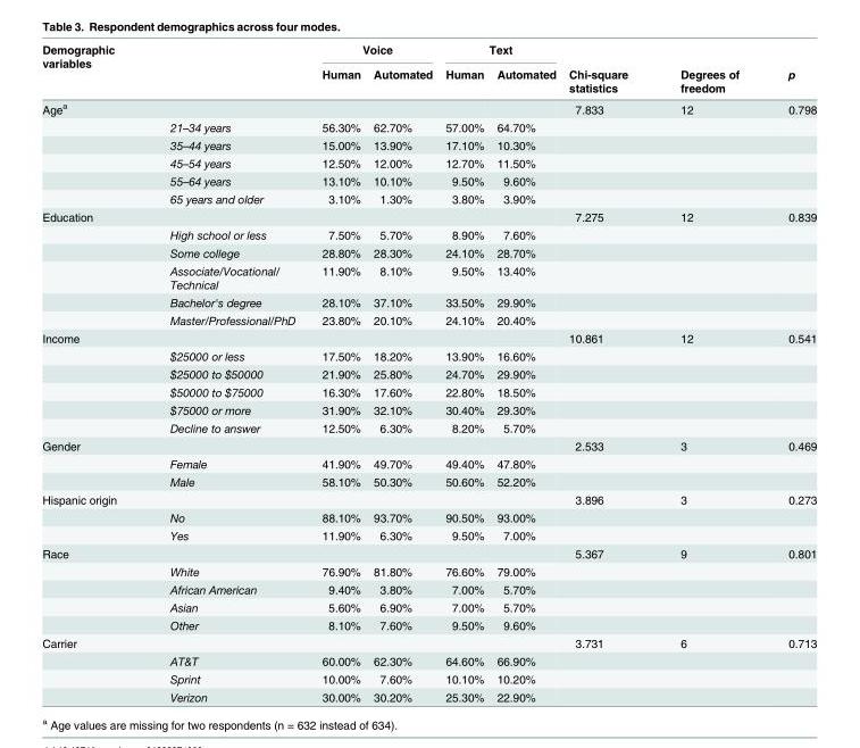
<table><thead><tr><td rowspan="2">Demographic variables</td><td rowspan="2"></td><td colspan="2">Voice</td><td colspan="2">Text</td><td rowspan="2">Chi-square statistics</td><td rowspan="2">Degrees of freedom</td><td rowspan="2">p</td></tr><tr><td>Human</td><td>Automated</td><td>Human</td><td>Automated</td></tr></thead><tbody><tr><td rowspan="6">Age<sup>a</sup></td><td></td><td></td><td></td><td></td><td></td><td>7.833</td><td>12</td><td>0.798</td></tr><tr><td>21–34 years</td><td>56.30%</td><td>62.70%</td><td>57.00%</td><td>64.70%</td><td></td><td></td><td></td></tr><tr><td>35–44 years</td><td>15.00%</td><td>13.90%</td><td>17.10%</td><td>10.30%</td><td></td><td></td><td></td></tr><tr><td>45–54 years</td><td>12.50%</td><td>12.00%</td><td>12.70%</td><td>11.50%</td><td></td><td></td><td></td></tr><tr><td>55–64 years</td><td>13.10%</td><td>10.10%</td><td>9.50%</td><td>9.60%</td><td></td><td></td><td></td></tr><tr><td>65 years and older</td><td>3.10%</td><td>1.30%</td><td>3.80%</td><td>3.90%</td><td></td><td></td><td></td></tr><tr><td rowspan="6">Education</td><td></td><td></td><td></td><td></td><td></td><td>7.275</td><td>12</td><td>0.839</td></tr><tr><td>High school or less</td><td>7.50%</td><td>5.70%</td><td>8.90%</td><td>7.60%</td><td></td><td></td><td></td></tr><tr><td>Some college</td><td>28.80%</td><td>28.30%</td><td>24.10%</td><td>28.70%</td><td></td><td></td><td></td></tr><tr><td>Associate/Vocational/ Technical</td><td>11.90%</td><td>8.10%</td><td>9.50%</td><td>13.40%</td><td></td><td></td><td></td></tr><tr><td>Bachelor&#x27;s degree</td><td>28.10%</td><td>37.10%</td><td>33.50%</td><td>29.90%</td><td></td><td></td><td></td></tr><tr><td>Master/Professional/PhD</td><td>23.80%</td><td>20.10%</td><td>24.10%</td><td>20.40%</td><td></td><td></td><td></td></tr><tr><td rowspan="6">Income</td><td></td><td></td><td></td><td></td><td></td><td>10.861</td><td>12</td><td>0.541</td></tr><tr><td>$25000 or less</td><td>17.50%</td><td>18.20%</td><td>13.90%</td><td>16.60%</td><td></td><td></td><td></td></tr><tr><td>$25000 to $50000</td><td>21.90%</td><td>25.80%</td><td>24.70%</td><td>29.90%</td><td></td><td></td><td></td></tr><tr><td>$50000 to $75000</td><td>16.30%</td><td>17.60%</td><td>22.80%</td><td>18.50%</td><td></td><td></td><td></td></tr><tr><td>$75000 or more</td><td>31.90%</td><td>32.10%</td><td>30.40%</td><td>29.30%</td><td></td><td></td><td></td></tr><tr><td>Decline to answer</td><td>12.50%</td><td>6.30%</td><td>8.20%</td><td>5.70%</td><td></td><td></td><td></td></tr><tr><td rowspan="3">Gender</td><td></td><td></td><td></td><td></td><td></td><td>2.533</td><td>3</td><td>0.469</td></tr><tr><td>Female</td><td>41.90%</td><td>49.70%</td><td>49.40%</td><td>47.80%</td><td></td><td></td><td></td></tr><tr><td>Male</td><td>58.10%</td><td>50.30%</td><td>50.60%</td><td>52.20%</td><td></td><td></td><td></td></tr><tr><td rowspan="3">Hispanic origin</td><td></td><td></td><td></td><td></td><td></td><td>3.896</td><td>3</td><td>0.273</td></tr><tr><td>No</td><td>88.10%</td><td>93.70%</td><td>90.50%</td><td>93.00%</td><td></td><td></td><td></td></tr><tr><td>Yes</td><td>11.90%</td><td>6.30%</td><td>9.50%</td><td>7.00%</td><td></td><td></td><td></td></tr><tr><td rowspan="5">Race</td><td></td><td></td><td></td><td></td><td></td><td>5.367</td><td>9</td><td>0.801</td></tr><tr><td>White</td><td>76.90%</td><td>81.80%</td><td>76.60%</td><td>79.00%</td><td></td><td></td><td></td></tr><tr><td>African American</td><td>9.40%</td><td>3.80%</td><td>7.00%</td><td>5.70%</td><td></td><td></td><td></td></tr><tr><td>Asian</td><td>5.60%</td><td>6.90%</td><td>7.00%</td><td>5.70%</td><td></td><td></td><td></td></tr><tr><td>Other</td><td>8.10%</td><td>7.60%</td><td>9.50%</td><td>9.60%</td><td></td><td></td><td></td></tr><tr><td rowspan="4">Carrier</td><td></td><td></td><td></td><td></td><td></td><td>3.731</td><td>6</td><td>0.713</td></tr><tr><td>AT&amp;T</td><td>60.00%</td><td>62.30%</td><td>64.60%</td><td>66.90%</td><td></td><td></td><td></td></tr><tr><td>Sprint</td><td>10.00%</td><td>7.60%</td><td>10.10%</td><td>10.20%</td><td></td><td></td><td></td></tr><tr><td>Verizon</td><td>30.00%</td><td>30.20%</td><td>25.30%</td><td>22.90%</td><td></td><td></td><td></td></tr></tbody></table>